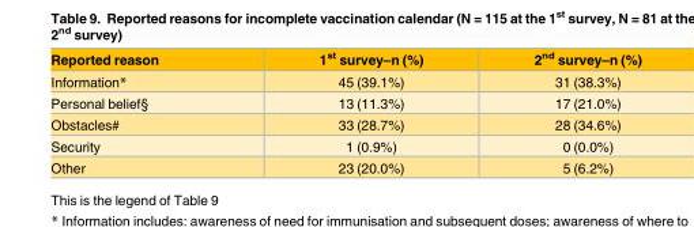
<table><thead><tr><td>Reported reason</td><td>1<sup>st</sup> survey–n (%)</td><td>2<sup>nd</sup> survey–n (%)</td></tr></thead><tbody><tr><td>Information*</td><td>45 (39.1%)</td><td>31 (38.3%)</td></tr><tr><td>Personal belief§</td><td>13 (11.3%)</td><td>17 (21.0%)</td></tr><tr><td>Obstacles#</td><td>33 (28.7%)</td><td>28 (34.6%)</td></tr><tr><td>Security</td><td>1 (0.9%)</td><td>0 (0.0%)</td></tr><tr><td>Other</td><td>23 (20.0%)</td><td>5 (6.2%)</td></tr></tbody></table>